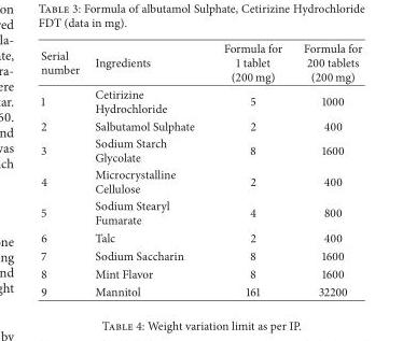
<table><thead><tr><td>Serial number</td><td>Ingredients</td><td>Formula for 1 tablet (200 mg)</td><td>Formula for 200 tablets (200 mg)</td></tr></thead><tbody><tr><td>1</td><td>Cetirizine Hydrochloride</td><td>5</td><td>1000</td></tr><tr><td>2</td><td>Salbutamol Sulphate</td><td>2</td><td>400</td></tr><tr><td>3</td><td>Sodium Starch Glycolate</td><td>8</td><td>1600</td></tr><tr><td>4</td><td>Microcrystalline Cellulose</td><td>2</td><td>400</td></tr><tr><td>5</td><td>Sodium Stearyl Fumarate</td><td>4</td><td>800</td></tr><tr><td>6</td><td>Talc</td><td>2</td><td>400</td></tr><tr><td>7</td><td>Sodium Saccharin</td><td>8</td><td>1600</td></tr><tr><td>8</td><td>Mint Flavor</td><td>8</td><td>1600</td></tr><tr><td>9</td><td>Mannitol</td><td>161</td><td>32200</td></tr></tbody></table>